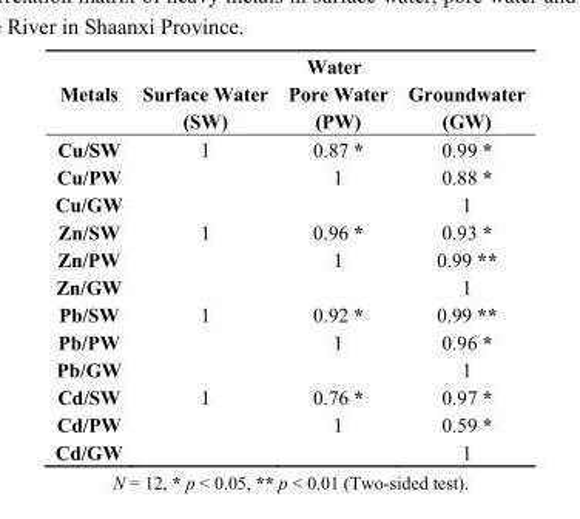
<table><thead><tr><td rowspan="2">Metals</td><td colspan="3">Water</td></tr><tr><td>Surface Water (SW)</td><td>Pore Water (PW)</td><td>Groundwater (GW)</td></tr></thead><tbody><tr><td>Cu/SW</td><td>1</td><td>0.87 *</td><td>0.99 *</td></tr><tr><td>Cu/PW</td><td></td><td>1</td><td>0.88 *</td></tr><tr><td>Cu/GW</td><td></td><td></td><td>1</td></tr><tr><td>Zn/SW</td><td>1</td><td>0.96 *</td><td>0.93 *</td></tr><tr><td>Zn/PW</td><td></td><td>1</td><td>0.99 **</td></tr><tr><td>Zn/GW</td><td></td><td></td><td>1</td></tr><tr><td>Pb/SW</td><td>1</td><td>0.92 *</td><td>0.99 **</td></tr><tr><td>Pb/PW</td><td></td><td>1</td><td>0.96 *</td></tr><tr><td>Pb/GW</td><td></td><td></td><td>1</td></tr><tr><td>Cd/SW</td><td>1</td><td>0.76 *</td><td>0.97 *</td></tr><tr><td>Cd/PW</td><td></td><td>1</td><td>0.59 *</td></tr><tr><td>Cd/GW</td><td></td><td></td><td>1</td></tr></tbody></table>